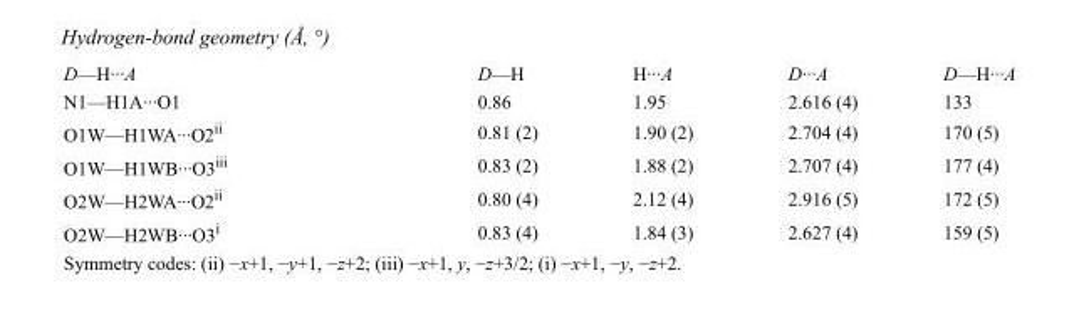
<table><tbody><tr><td>D—H···A</td><td>D—H</td><td>H···A</td><td>D···A</td><td>D—H···A</td></tr><tr><td>N1—H1A···O1</td><td>0.86</td><td>1.95</td><td>2.616 (4)</td><td>133</td></tr><tr><td>O1W—H1WA···O2<sup>ii</sup></td><td>0.81 (2)</td><td>1.90 (2)</td><td>2.704 (4)</td><td>170 (5)</td></tr><tr><td>O1W—H1WB···O3<sup>iii</sup></td><td>0.83 (2)</td><td>1.88 (2)</td><td>2.707 (4)</td><td>177 (4)</td></tr><tr><td>O2W—H2WA···O2<sup>ii</sup></td><td>0.80 (4)</td><td>2.12 (4)</td><td>2.916 (5)</td><td>172 (5)</td></tr><tr><td>O2W—H2WB···O3<sup>i</sup></td><td>0.83 (4)</td><td>1.84 (3)</td><td>2.627 (4)</td><td>159 (5)</td></tr></tbody></table>